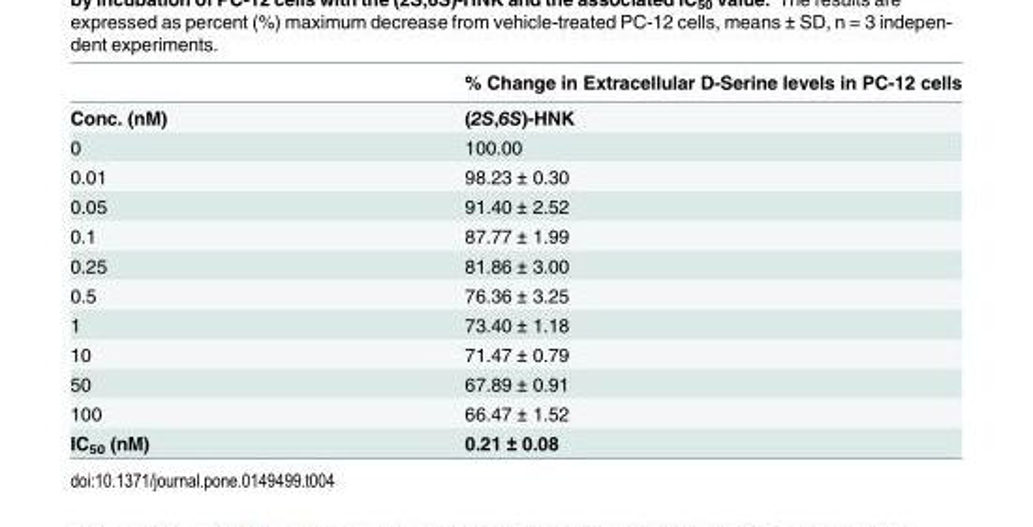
<table><thead><tr><td></td><td>% Change in Extracellular D-Serine levels in PC-12 cells</td></tr></thead><tbody><tr><td>Conc. (nM)</td><td>(2S,6S)-HNK</td></tr><tr><td>0</td><td>100.00</td></tr><tr><td>0.01</td><td>98.23 ± 0.30</td></tr><tr><td>0.05</td><td>91.40 ± 2.52</td></tr><tr><td>0.1</td><td>87.77 ± 1.99</td></tr><tr><td>0.25</td><td>81.86 ± 3.00</td></tr><tr><td>0.5</td><td>76.36 ± 3.25</td></tr><tr><td>1</td><td>73.40 ± 1.18</td></tr><tr><td>10</td><td>71.47 ± 0.79</td></tr><tr><td>50</td><td>67.89 ± 0.91</td></tr><tr><td>100</td><td>66.47 ± 1.52</td></tr><tr><td>IC<sub>50</sub> (nM)</td><td>0.21 ± 0.08</td></tr></tbody></table>